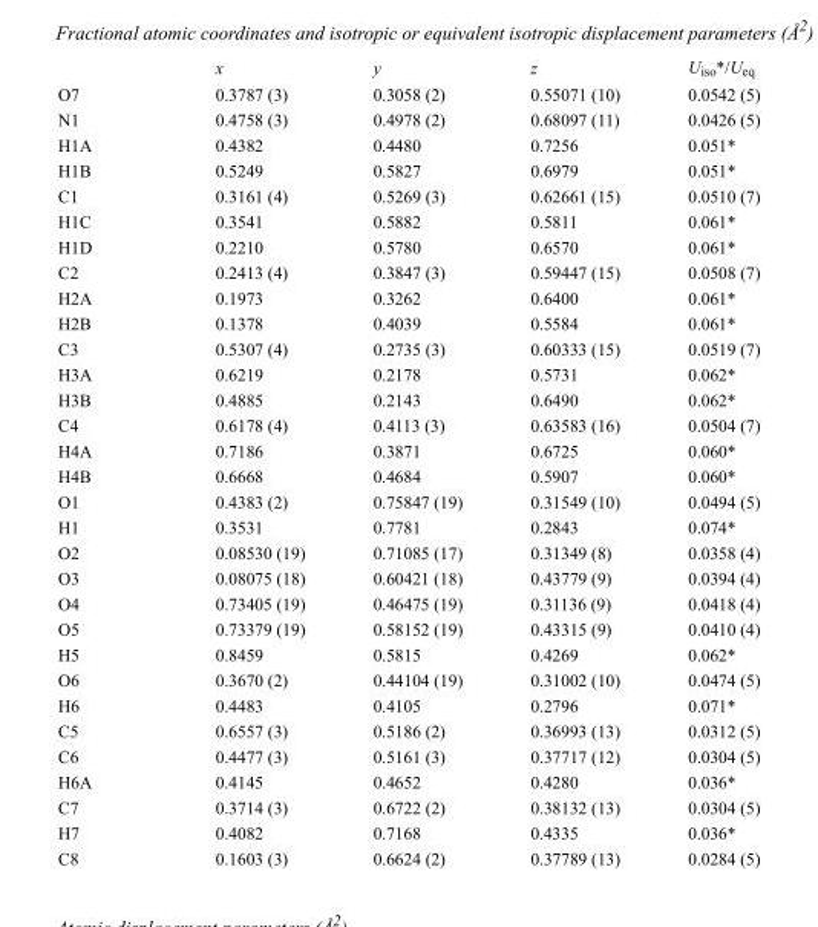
<table><thead><tr><td></td><td>x</td><td>y</td><td>z</td><td>U<sub>iso</sub>*/U<sub>eq</sub></td></tr></thead><tbody><tr><td>O7</td><td>0.3787 (3)</td><td>0.3058 (2)</td><td>0.55071 (10)</td><td>0.0542 (5)</td></tr><tr><td>N1</td><td>0.4758 (3)</td><td>0.4978 (2)</td><td>0.68097 (11)</td><td>0.0426 (5)</td></tr><tr><td>H1A</td><td>0.4382</td><td>0.4480</td><td>0.7256</td><td>0.051*</td></tr><tr><td>H1B</td><td>0.5249</td><td>0.5827</td><td>0.6979</td><td>0.051*</td></tr><tr><td>C1</td><td>0.3161 (4)</td><td>0.5269 (3)</td><td>0.62661 (15)</td><td>0.0510 (7)</td></tr><tr><td>H1C</td><td>0.3541</td><td>0.5882</td><td>0.5811</td><td>0.061*</td></tr><tr><td>H1D</td><td>0.2210</td><td>0.5780</td><td>0.6570</td><td>0.061*</td></tr><tr><td>C2</td><td>0.2413 (4)</td><td>0.3847 (3)</td><td>0.59447 (15)</td><td>0.0508 (7)</td></tr><tr><td>H2A</td><td>0.1973</td><td>0.3262</td><td>0.6400</td><td>0.061*</td></tr><tr><td>H2B</td><td>0.1378</td><td>0.4039</td><td>0.5584</td><td>0.061*</td></tr><tr><td>C3</td><td>0.5307 (4)</td><td>0.2735 (3)</td><td>0.60333 (15)</td><td>0.0519 (7)</td></tr><tr><td>H3A</td><td>0.6219</td><td>0.2178</td><td>0.5731</td><td>0.062*</td></tr><tr><td>H3B</td><td>0.4885</td><td>0.2143</td><td>0.6490</td><td>0.062*</td></tr><tr><td>C4</td><td>0.6178 (4)</td><td>0.4113 (3)</td><td>0.63583 (16)</td><td>0.0504 (7)</td></tr><tr><td>H4A</td><td>0.7186</td><td>0.3871</td><td>0.6725</td><td>0.060*</td></tr><tr><td>H4B</td><td>0.6668</td><td>0.4684</td><td>0.5907</td><td>0.060*</td></tr><tr><td>O1</td><td>0.4383 (2)</td><td>0.75847 (19)</td><td>0.31549 (10)</td><td>0.0494 (5)</td></tr><tr><td>H1</td><td>0.3531</td><td>0.7781</td><td>0.2843</td><td>0.074*</td></tr><tr><td>O2</td><td>0.08530 (19)</td><td>0.71085 (17)</td><td>0.31349 (8)</td><td>0.0358 (4)</td></tr><tr><td>O3</td><td>0.08075 (18)</td><td>0.60421 (18)</td><td>0.43779 (9)</td><td>0.0394 (4)</td></tr><tr><td>O4</td><td>0.73405 (19)</td><td>0.46475 (19)</td><td>0.31136 (9)</td><td>0.0418 (4)</td></tr><tr><td>O5</td><td>0.73379 (19)</td><td>0.58152 (19)</td><td>0.43315 (9)</td><td>0.0410 (4)</td></tr><tr><td>H5</td><td>0.8459</td><td>0.5815</td><td>0.4269</td><td>0.062*</td></tr><tr><td>O6</td><td>0.3670 (2)</td><td>0.44104 (19)</td><td>0.31002 (10)</td><td>0.0474 (5)</td></tr><tr><td>H6</td><td>0.4483</td><td>0.4105</td><td>0.2796</td><td>0.071*</td></tr><tr><td>C5</td><td>0.6557 (3)</td><td>0.5186 (2)</td><td>0.36993 (13)</td><td>0.0312 (5)</td></tr><tr><td>C6</td><td>0.4477 (3)</td><td>0.5161 (3)</td><td>0.37717 (12)</td><td>0.0304 (5)</td></tr><tr><td>H6A</td><td>0.4145</td><td>0.4652</td><td>0.4280</td><td>0.036*</td></tr><tr><td>C7</td><td>0.3714 (3)</td><td>0.6722 (2)</td><td>0.38132 (13)</td><td>0.0304 (5)</td></tr><tr><td>H7</td><td>0.4082</td><td>0.7168</td><td>0.4335</td><td>0.036*</td></tr><tr><td>C8</td><td>0.1603 (3)</td><td>0.6624 (2)</td><td>0.37789 (13)</td><td>0.0284 (5)</td></tr></tbody></table>